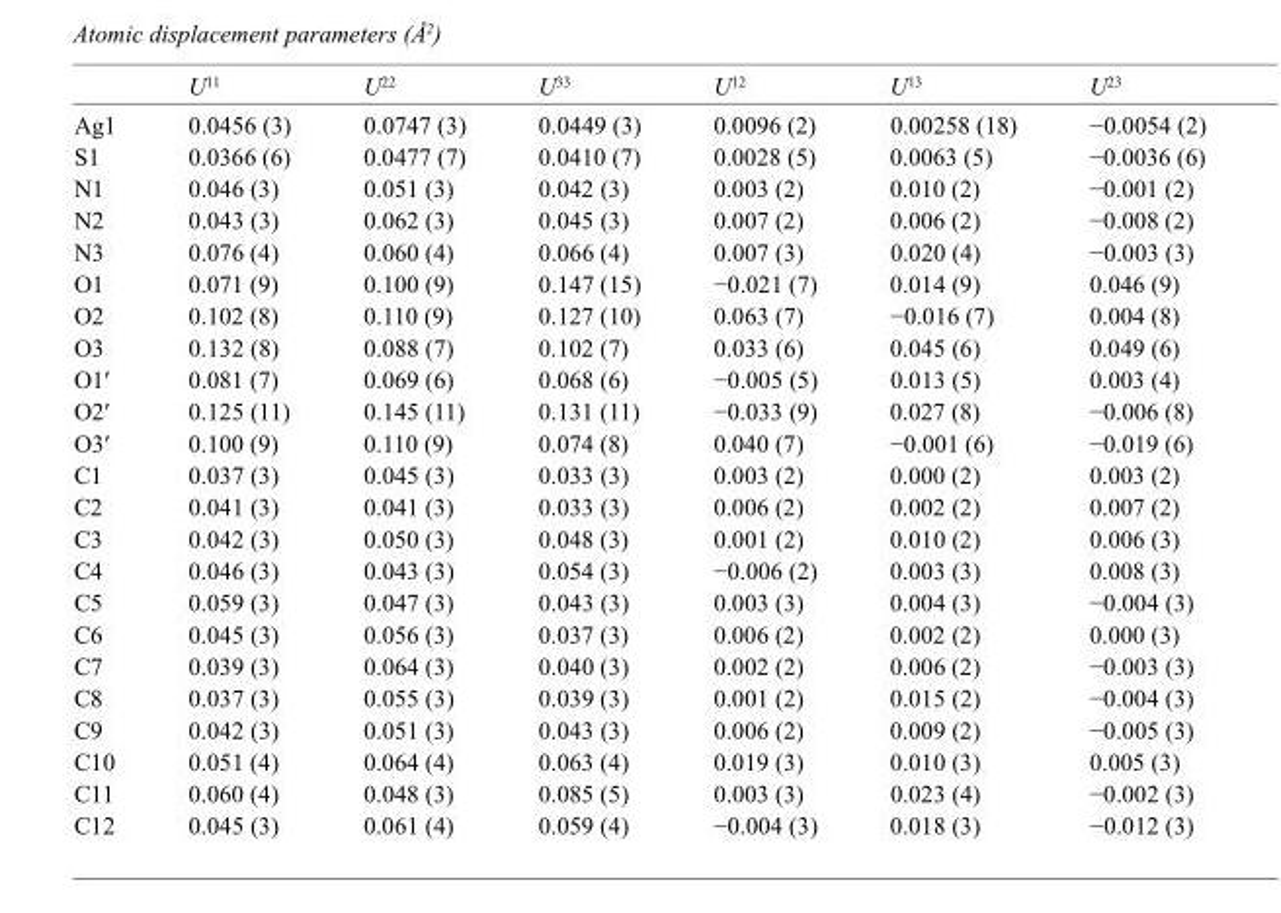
<table><thead><tr><td></td><td>U<sup>11</sup></td><td>U<sup>22</sup></td><td>U<sup>33</sup></td><td>U<sup>12</sup></td><td>U<sup>13</sup></td><td>U<sup>23</sup></td></tr></thead><tbody><tr><td>Ag1</td><td>0.0456 (3)</td><td>0.0747 (3)</td><td>0.0449 (3)</td><td>0.0096 (2)</td><td>0.00258 (18)</td><td>−0.0054 (2)</td></tr><tr><td>S1</td><td>0.0366 (6)</td><td>0.0477 (7)</td><td>0.0410 (7)</td><td>0.0028 (5)</td><td>0.0063 (5)</td><td>−0.0036 (6)</td></tr><tr><td>N1</td><td>0.046 (3)</td><td>0.051 (3)</td><td>0.042 (3)</td><td>0.003 (2)</td><td>0.010 (2)</td><td>−0.001 (2)</td></tr><tr><td>N2</td><td>0.043 (3)</td><td>0.062 (3)</td><td>0.045 (3)</td><td>0.007 (2)</td><td>0.006 (2)</td><td>−0.008 (2)</td></tr><tr><td>N3</td><td>0.076 (4)</td><td>0.060 (4)</td><td>0.066 (4)</td><td>0.007 (3)</td><td>0.020 (4)</td><td>−0.003 (3)</td></tr><tr><td>O1</td><td>0.071 (9)</td><td>0.100 (9)</td><td>0.147 (15)</td><td>−0.021 (7)</td><td>0.014 (9)</td><td>0.046 (9)</td></tr><tr><td>O2</td><td>0.102 (8)</td><td>0.110 (9)</td><td>0.127 (10)</td><td>0.063 (7)</td><td>−0.016 (7)</td><td>0.004 (8)</td></tr><tr><td>O3</td><td>0.132 (8)</td><td>0.088 (7)</td><td>0.102 (7)</td><td>0.033 (6)</td><td>0.045 (6)</td><td>0.049 (6)</td></tr><tr><td>O1′</td><td>0.081 (7)</td><td>0.069 (6)</td><td>0.068 (6)</td><td>−0.005 (5)</td><td>0.013 (5)</td><td>0.003 (4)</td></tr><tr><td>O2′</td><td>0.125 (11)</td><td>0.145 (11)</td><td>0.131 (11)</td><td>−0.033 (9)</td><td>0.027 (8)</td><td>−0.006 (8)</td></tr><tr><td>O3′</td><td>0.100 (9)</td><td>0.110 (9)</td><td>0.074 (8)</td><td>0.040 (7)</td><td>−0.001 (6)</td><td>−0.019 (6)</td></tr><tr><td>C1</td><td>0.037 (3)</td><td>0.045 (3)</td><td>0.033 (3)</td><td>0.003 (2)</td><td>0.000 (2)</td><td>0.003 (2)</td></tr><tr><td>C2</td><td>0.041 (3)</td><td>0.041 (3)</td><td>0.033 (3)</td><td>0.006 (2)</td><td>0.002 (2)</td><td>0.007 (2)</td></tr><tr><td>C3</td><td>0.042 (3)</td><td>0.050 (3)</td><td>0.048 (3)</td><td>0.001 (2)</td><td>0.010 (2)</td><td>0.006 (3)</td></tr><tr><td>C4</td><td>0.046 (3)</td><td>0.043 (3)</td><td>0.054 (3)</td><td>−0.006 (2)</td><td>0.003 (3)</td><td>0.008 (3)</td></tr><tr><td>C5</td><td>0.059 (3)</td><td>0.047 (3)</td><td>0.043 (3)</td><td>0.003 (3)</td><td>0.004 (3)</td><td>−0.004 (3)</td></tr><tr><td>C6</td><td>0.045 (3)</td><td>0.056 (3)</td><td>0.037 (3)</td><td>0.006 (2)</td><td>0.002 (2)</td><td>0.000 (3)</td></tr><tr><td>C7</td><td>0.039 (3)</td><td>0.064 (3)</td><td>0.040 (3)</td><td>0.002 (2)</td><td>0.006 (2)</td><td>−0.003 (3)</td></tr><tr><td>C8</td><td>0.037 (3)</td><td>0.055 (3)</td><td>0.039 (3)</td><td>0.001 (2)</td><td>0.015 (2)</td><td>−0.004 (3)</td></tr><tr><td>C9</td><td>0.042 (3)</td><td>0.051 (3)</td><td>0.043 (3)</td><td>0.006 (2)</td><td>0.009 (2)</td><td>−0.005 (3)</td></tr><tr><td>C10</td><td>0.051 (4)</td><td>0.064 (4)</td><td>0.063 (4)</td><td>0.019 (3)</td><td>0.010 (3)</td><td>0.005 (3)</td></tr><tr><td>C11</td><td>0.060 (4)</td><td>0.048 (3)</td><td>0.085 (5)</td><td>0.003 (3)</td><td>0.023 (4)</td><td>−0.002 (3)</td></tr><tr><td>C12</td><td>0.045 (3)</td><td>0.061 (4)</td><td>0.059 (4)</td><td>−0.004 (3)</td><td>0.018 (3)</td><td>−0.012 (3)</td></tr></tbody></table>